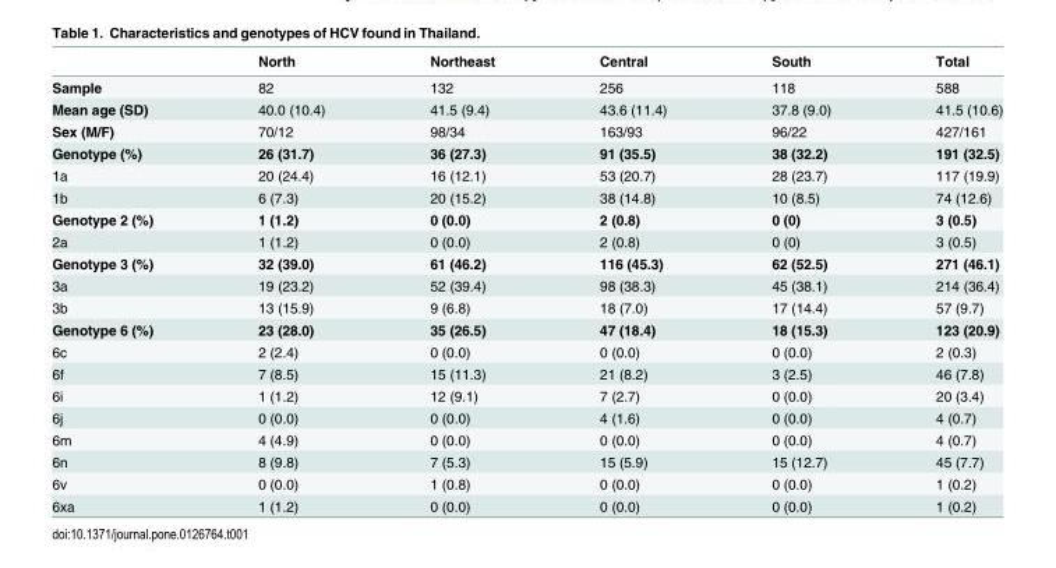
<table><thead><tr><td></td><td>North</td><td>Northeast</td><td>Central</td><td>South</td><td>Total</td></tr></thead><tbody><tr><td>Sample</td><td>82</td><td>132</td><td>256</td><td>118</td><td>588</td></tr><tr><td>Mean age (SD)</td><td>40.0 (10.4)</td><td>41.5 (9.4)</td><td>43.6 (11.4)</td><td>37.8 (9.0)</td><td>41.5 (10.6)</td></tr><tr><td>Sex (M/F)</td><td>70/12</td><td>98/34</td><td>163/93</td><td>96/22</td><td>427/161</td></tr><tr><td>Genotype (%)</td><td>26 (31.7)</td><td>36 (27.3)</td><td>91 (35.5)</td><td>38 (32.2)</td><td>191 (32.5)</td></tr><tr><td>1a</td><td>20 (24.4)</td><td>16 (12.1)</td><td>53 (20.7)</td><td>28 (23.7)</td><td>117 (19.9)</td></tr><tr><td>1b</td><td>6 (7.3)</td><td>20 (15.2)</td><td>38 (14.8)</td><td>10 (8.5)</td><td>74 (12.6)</td></tr><tr><td>Genotype 2 (%)</td><td>1 (1.2)</td><td>0 (0.0)</td><td>2 (0.8)</td><td>0 (0)</td><td>3 (0.5)</td></tr><tr><td>2a</td><td>1 (1.2)</td><td>0 (0.0)</td><td>2 (0.8)</td><td>0 (0)</td><td>3 (0.5)</td></tr><tr><td>Genotype 3 (%)</td><td>32 (39.0)</td><td>61 (46.2)</td><td>116 (45.3)</td><td>62 (52.5)</td><td>271 (46.1)</td></tr><tr><td>3a</td><td>19 (23.2)</td><td>52 (39.4)</td><td>98 (38.3)</td><td>45 (38.1)</td><td>214 (36.4)</td></tr><tr><td>3b</td><td>13 (15.9)</td><td>9 (6.8)</td><td>18 (7.0)</td><td>17 (14.4)</td><td>57 (9.7)</td></tr><tr><td>Genotype 6 (%)</td><td>23 (28.0)</td><td>35 (26.5)</td><td>47 (18.4)</td><td>18 (15.3)</td><td>123 (20.9)</td></tr><tr><td>6c</td><td>2 (2.4)</td><td>0 (0.0)</td><td>0 (0.0)</td><td>0 (0.0)</td><td>2 (0.3)</td></tr><tr><td>6f</td><td>7 (8.5)</td><td>15 (11.3)</td><td>21 (8.2)</td><td>3 (2.5)</td><td>46 (7.8)</td></tr><tr><td>6i</td><td>1 (1.2)</td><td>12 (9.1)</td><td>7 (2.7)</td><td>0 (0.0)</td><td>20 (3.4)</td></tr><tr><td>6j</td><td>0 (0.0)</td><td>0 (0.0)</td><td>4 (1.6)</td><td>0 (0.0)</td><td>4 (0.7)</td></tr><tr><td>6m</td><td>4 (4.9)</td><td>0 (0.0)</td><td>0 (0.0)</td><td>0 (0.0)</td><td>4 (0.7)</td></tr><tr><td>6n</td><td>8 (9.8)</td><td>7 (5.3)</td><td>15 (5.9)</td><td>15 (12.7)</td><td>45 (7.7)</td></tr><tr><td>6v</td><td>0 (0.0)</td><td>1 (0.8)</td><td>0 (0.0)</td><td>0 (0.0)</td><td>1 (0.2)</td></tr><tr><td>6xa</td><td>1 (1.2)</td><td>0 (0.0)</td><td>0 (0.0)</td><td>0 (0.0)</td><td>1 (0.2)</td></tr></tbody></table>